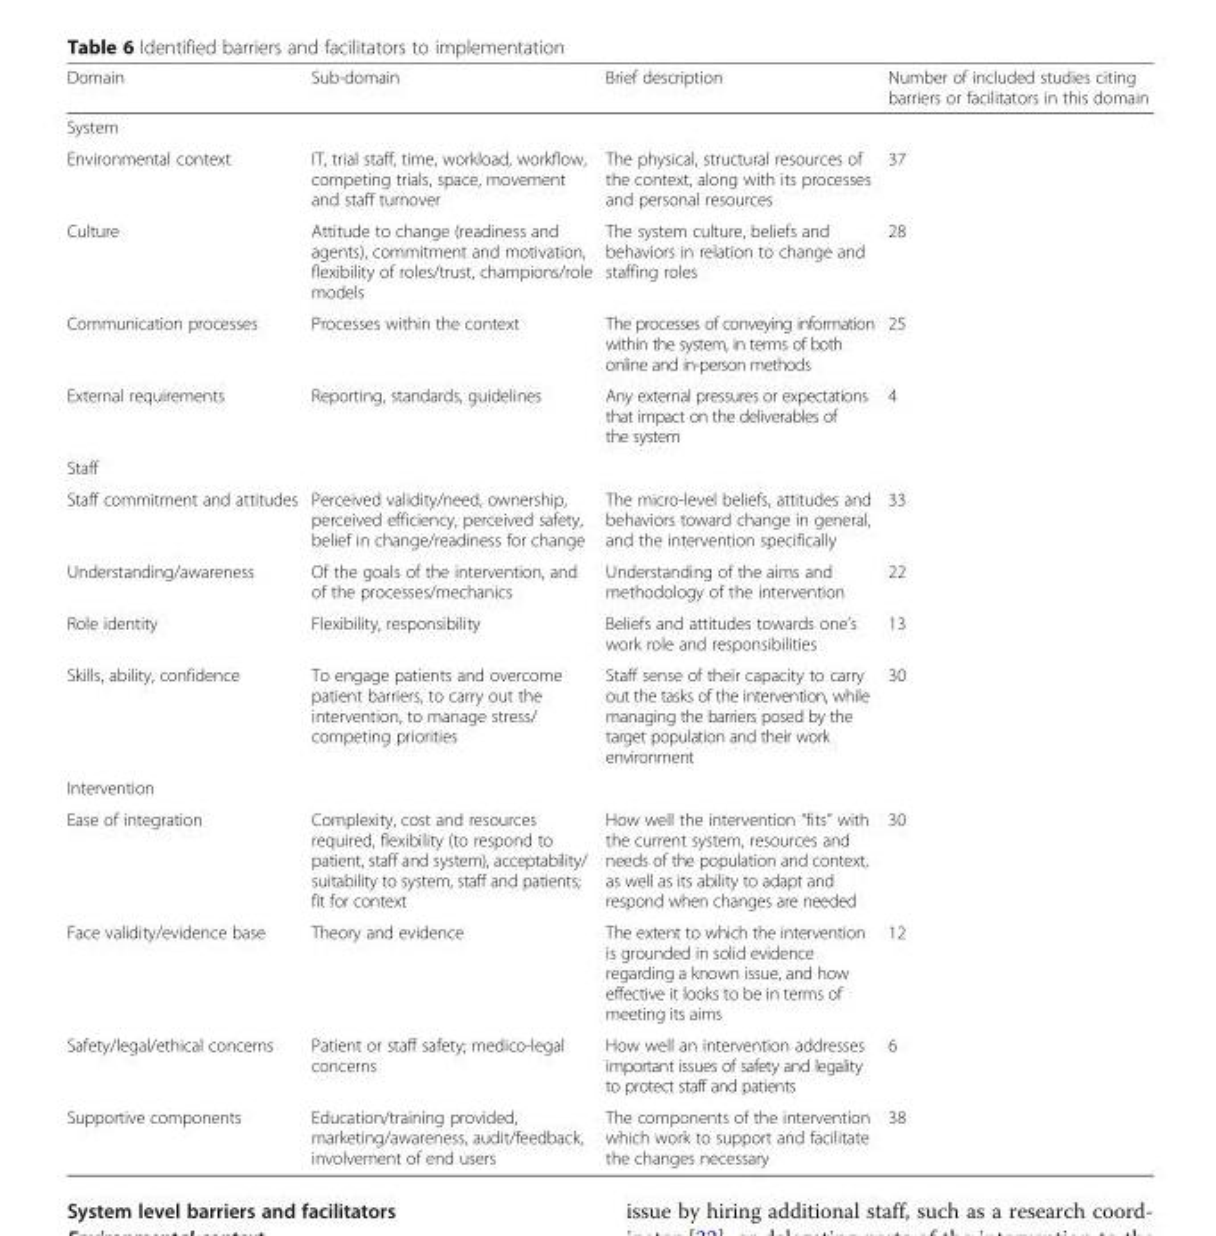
<table><thead><tr><td>Domain</td><td>Sub-domain</td><td>Brief description</td><td>Number of included studies citing barriers or facilitators in this domain</td></tr></thead><tbody><tr><td colspan="4">System</td></tr><tr><td>Environmental context</td><td>IT, trial staff, time, workload, workflow, competing trials, space, movement and staff turnover</td><td>The physical, structural resources of the context, along with its processes and personal resources</td><td>37</td></tr><tr><td>Culture</td><td>Attitude to change (readiness and agents), commitment and motivation, flexibility of roles/trust, champions/role models</td><td>The system culture, beliefs and behaviors in relation to change and staffing roles</td><td>28</td></tr><tr><td>Communication processes</td><td>Processes within the context</td><td>The processes of conveying information within the system, in terms of both online and in-person methods</td><td>25</td></tr><tr><td>External requirements</td><td>Reporting, standards, guidelines</td><td>Any external pressures or expectations that impact on the deliverables of the system</td><td>4</td></tr><tr><td colspan="4">Staff</td></tr><tr><td>Staff commitment and attitudes</td><td>Perceived validity/need, ownership, perceived efficiency, perceived safety, belief in change/readiness for change</td><td>The micro-level beliefs, attitudes and behaviors toward change in general, and the intervention specifically</td><td>33</td></tr><tr><td>Understanding/awareness</td><td>Of the goals of the intervention, and of the processes/mechanics</td><td>Understanding of the aims and methodology of the intervention</td><td>22</td></tr><tr><td>Role identity</td><td>Flexibility, responsibility</td><td>Beliefs and attitudes towards one’s work role and responsibilities</td><td>13</td></tr><tr><td>Skills, ability, confidence</td><td>To engage patients and overcome patient barriers, to carry out the intervention, to manage stress/ competing priorities</td><td>Staff sense of their capacity to carry out the tasks of the intervention, while managing the barriers posed by the target population and their work environment</td><td>30</td></tr><tr><td colspan="4">Intervention</td></tr><tr><td>Ease of integration</td><td>Complexity, cost and resources required, flexibility (to respond to patient, staff and system), acceptability/ suitability to system, staff and patients; fit for context</td><td>How well the intervention “fits” with the current system, resources and needs of the population and context, as well as its ability to adapt and respond when changes are needed</td><td>30</td></tr><tr><td>Face validity/evidence base</td><td>Theory and evidence</td><td>The extent to which the intervention is grounded in solid evidence regarding a known issue, and how effective it looks to be in terms of meeting its aims</td><td>12</td></tr><tr><td>Safety/legal/ethical concerns</td><td>Patient or staff safety; medico-legal concerns</td><td>How well an intervention addresses important issues of safety and legality to protect staff and patients</td><td>6</td></tr><tr><td>Supportive components</td><td>Education/training provided, marketing/awareness, audit/feedback, involvement of end users</td><td>The components of the intervention which work to support and facilitate the changes necessary</td><td>38</td></tr></tbody></table>